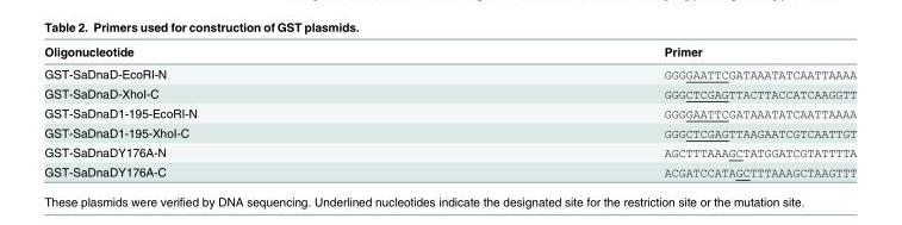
<table><thead><tr><td>Oligonucleotide</td><td>Primer</td></tr></thead><tbody><tr><td>GST-SaDnaD-EcoRI-N</td><td>GGGGAATTCGATAAATATCAATTAAAA</td></tr><tr><td>GST-SaDnaD-XhoI-C</td><td>GGGCTCGAGTTACTTACCATCAAGGTT</td></tr><tr><td>GST-SaDnaD1-195-EcoRI-N</td><td>GGGGAATTCGATAAATATCAATTAAAA</td></tr><tr><td>GST-SaDnaD1-195-XhoI-C</td><td>GGGCTCGAGTTAAGAATCGTCAATTGT</td></tr><tr><td>GST-SaDnaDY176A-N</td><td>AGCTTTAAAGCTATGGATCGTATTTTA</td></tr><tr><td>GST-SaDnaDY176A-C</td><td>ACGATCCATAGCTTTAAAGCTAAGTTT</td></tr></tbody></table>